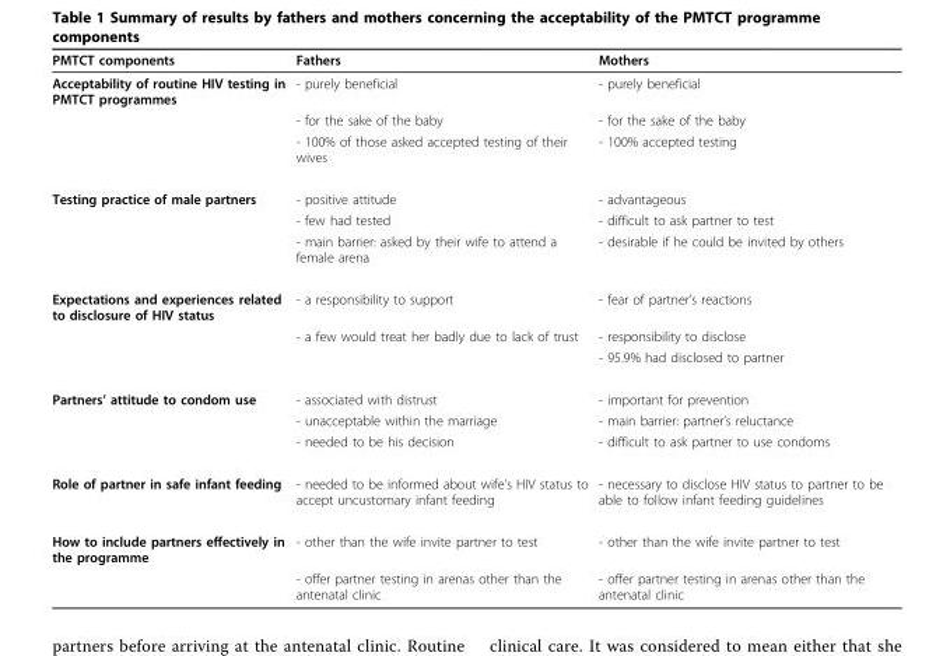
<table><thead><tr><td>PMTCT components</td><td>Fathers</td><td>Mothers</td></tr></thead><tbody><tr><td rowspan="3">Acceptability of routine HIV testing in PMTCT programmes</td><td>- purely beneficial</td><td>- purely beneficial</td></tr><tr><td>- for the sake of the baby</td><td>- for the sake of the baby</td></tr><tr><td>- 100% of those asked accepted testing of their wives</td><td>- 100% accepted testing</td></tr><tr><td rowspan="3">Testing practice of male partners</td><td>- positive attitude</td><td>- advantageous</td></tr><tr><td>- few had tested</td><td>- difficult to ask partner to test</td></tr><tr><td>- main barrier: asked by their wife to attend a female arena</td><td>- desirable if he could be invited by others</td></tr><tr><td rowspan="3">Expectations and experiences related to disclosure of HIV status</td><td>- a responsibility to support</td><td>- fear of partner’s reactions</td></tr><tr><td>- a few would treat her badly due to lack of trust</td><td>- responsibility to disclose</td></tr><tr><td></td><td>- 95.9% had disclosed to partner</td></tr><tr><td rowspan="3">Partners’ attitude to condom use</td><td>- associated with distrust</td><td>- important for prevention</td></tr><tr><td>- unacceptable within the marriage</td><td>- main barrier: partner’s reluctance</td></tr><tr><td>- needed to be his decision</td><td>- difficult to ask partner to use condoms</td></tr><tr><td>Role of partner in safe infant feeding</td><td>- needed to be informed about wife’s HIV status to accept uncustomary infant feeding</td><td>- necessary to disclose HIV status to partner to be able to follow infant feeding guidelines</td></tr><tr><td rowspan="2">How to include partners effectively in the programme</td><td>- other than the wife invite partner to test</td><td>- other than the wife invite partner to test</td></tr><tr><td>- offer partner testing in arenas other than the antenatal clinic</td><td>- offer partner testing in arenas other than the antenatal clinic</td></tr></tbody></table>